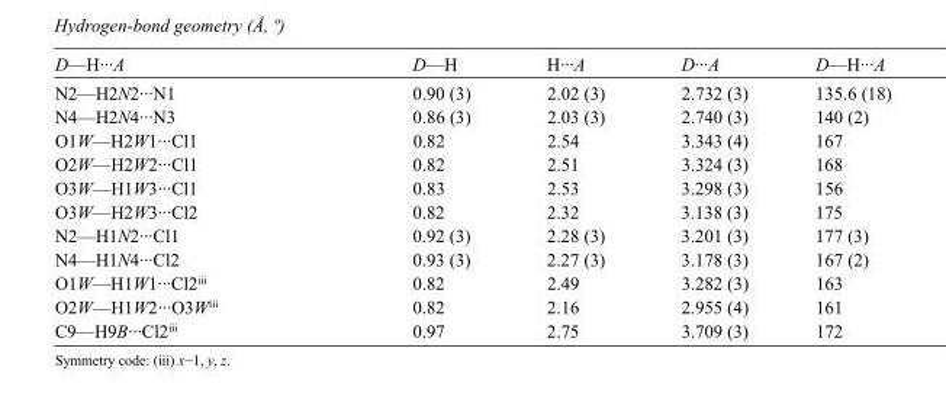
<table><tbody><tr><td>D—H···A</td><td>D—H</td><td>H···A</td><td>D···A</td><td>D—H···A</td></tr><tr><td>N2—H2N2···N1</td><td>0.90 (3)</td><td>2.02 (3)</td><td>2.732 (3)</td><td>135.6 (18)</td></tr><tr><td>N4—H2N4···N3</td><td>0.86 (3)</td><td>2.03 (3)</td><td>2.740 (3)</td><td>140 (2)</td></tr><tr><td>O1W—H2W1···Cl1</td><td>0.82</td><td>2.54</td><td>3.343 (4)</td><td>167</td></tr><tr><td>O2W—H2W2···Cl1</td><td>0.82</td><td>2.51</td><td>3.324 (3)</td><td>168</td></tr><tr><td>O3W—H1W3···Cl1</td><td>0.83</td><td>2.53</td><td>3.298 (3)</td><td>156</td></tr><tr><td>O3W—H2W3···Cl2</td><td>0.82</td><td>2.32</td><td>3.138 (3)</td><td>175</td></tr><tr><td>N2—H1N2···Cl1</td><td>0.92 (3)</td><td>2.28 (3)</td><td>3.201 (3)</td><td>177 (3)</td></tr><tr><td>N4—H1N4···Cl2</td><td>0.93 (3)</td><td>2.27 (3)</td><td>3.178 (3)</td><td>167 (2)</td></tr><tr><td>O1W—H1W1···Cl2<sup>iii</sup></td><td>0.82</td><td>2.49</td><td>3.282 (3)</td><td>163</td></tr><tr><td>O2W—H1W2···O3W<sup>iii</sup></td><td>0.82</td><td>2.16</td><td>2.955 (4)</td><td>161</td></tr><tr><td>C9—H9B···Cl2<sup>iii</sup></td><td>0.97</td><td>2.75</td><td>3.709 (3)</td><td>172</td></tr></tbody></table>